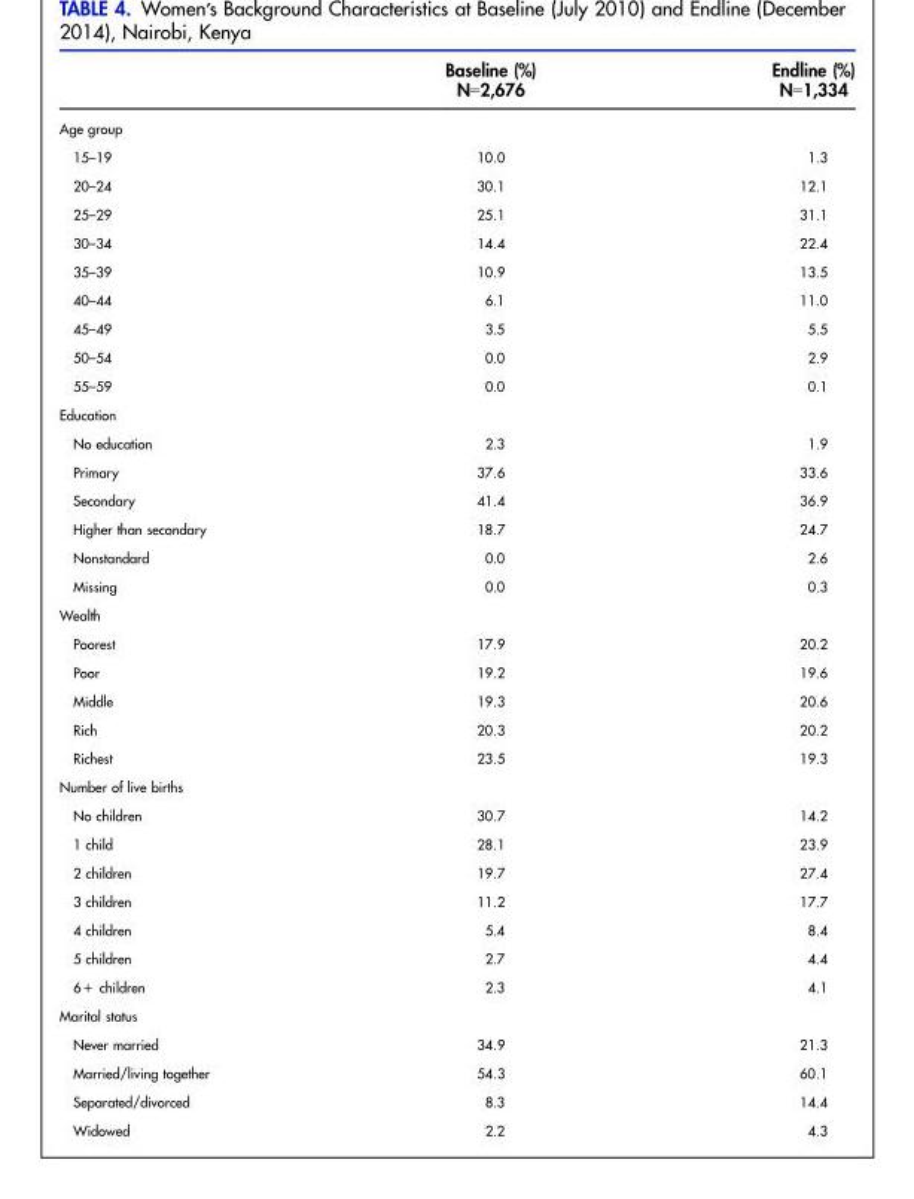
<table><thead><tr><td></td><td>Baseline (%) N=2,676</td><td>Endline (%) N=1,334</td></tr></thead><tbody><tr><td colspan="3">Age group</td></tr><tr><td>15–19</td><td>10.0</td><td>1.3</td></tr><tr><td>20–24</td><td>30.1</td><td>12.1</td></tr><tr><td>25–29</td><td>25.1</td><td>31.1</td></tr><tr><td>30–34</td><td>14.4</td><td>22.4</td></tr><tr><td>35–39</td><td>10.9</td><td>13.5</td></tr><tr><td>40–44</td><td>6.1</td><td>11.0</td></tr><tr><td>45–49</td><td>3.5</td><td>5.5</td></tr><tr><td>50–54</td><td>0.0</td><td>2.9</td></tr><tr><td>55–59</td><td>0.0</td><td>0.1</td></tr><tr><td colspan="3">Education</td></tr><tr><td>No education</td><td>2.3</td><td>1.9</td></tr><tr><td>Primary</td><td>37.6</td><td>33.6</td></tr><tr><td>Secondary</td><td>41.4</td><td>36.9</td></tr><tr><td>Higher than secondary</td><td>18.7</td><td>24.7</td></tr><tr><td>Nonstandard</td><td>0.0</td><td>2.6</td></tr><tr><td>Missing</td><td>0.0</td><td>0.3</td></tr><tr><td colspan="3">Wealth</td></tr><tr><td>Poorest</td><td>17.9</td><td>20.2</td></tr><tr><td>Poor</td><td>19.2</td><td>19.6</td></tr><tr><td>Middle</td><td>19.3</td><td>20.6</td></tr><tr><td>Rich</td><td>20.3</td><td>20.2</td></tr><tr><td>Richest</td><td>23.5</td><td>19.3</td></tr><tr><td colspan="3">Number of live births</td></tr><tr><td>No children</td><td>30.7</td><td>14.2</td></tr><tr><td>1 child</td><td>28.1</td><td>23.9</td></tr><tr><td>2 children</td><td>19.7</td><td>27.4</td></tr><tr><td>3 children</td><td>11.2</td><td>17.7</td></tr><tr><td>4 children</td><td>5.4</td><td>8.4</td></tr><tr><td>5 children</td><td>2.7</td><td>4.4</td></tr><tr><td>6+ children</td><td>2.3</td><td>4.1</td></tr><tr><td colspan="3">Marital status</td></tr><tr><td>Never married</td><td>34.9</td><td>21.3</td></tr><tr><td>Married/living together</td><td>54.3</td><td>60.1</td></tr><tr><td>Separated/divorced</td><td>8.3</td><td>14.4</td></tr><tr><td>Widowed</td><td>2.2</td><td>4.3</td></tr></tbody></table>